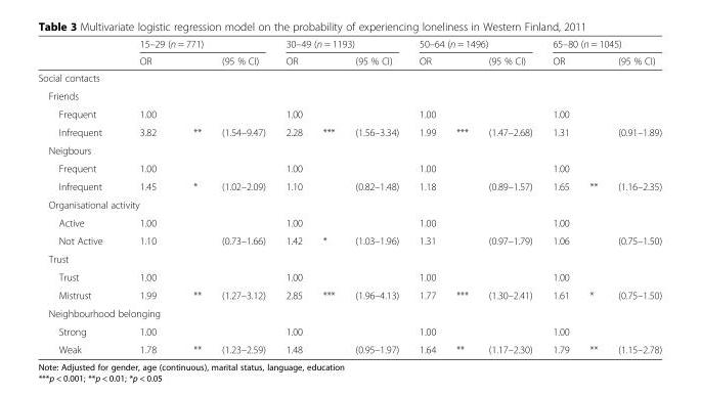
<table><thead><tr><td rowspan="2"></td><td colspan="3">15–29 (n = 771)</td><td colspan="3">30–49 (n = 1193)</td><td colspan="3">50–64 (n = 1496)</td><td colspan="3">65–80 (n = 1045)</td></tr><tr><td>OR</td><td></td><td>(95 % CI)</td><td>OR</td><td></td><td>(95 % CI)</td><td>OR</td><td></td><td>(95 % CI)</td><td>OR</td><td></td><td>(95 % CI)</td></tr></thead><tbody><tr><td colspan="13">Social contacts</td></tr><tr><td colspan="13">Friends</td></tr><tr><td>Frequent</td><td>1.00</td><td></td><td></td><td>1.00</td><td></td><td></td><td>1.00</td><td></td><td></td><td>1.00</td><td></td><td></td></tr><tr><td>Infrequent</td><td>3.82</td><td>**</td><td>(1.54–9.47)</td><td>2.28</td><td>***</td><td>(1.56–3.34)</td><td>1.99</td><td>***</td><td>(1.47–2.68)</td><td>1.31</td><td></td><td>(0.91–1.89)</td></tr><tr><td colspan="13">Neigbours</td></tr><tr><td>Frequent</td><td>1.00</td><td></td><td></td><td>1.00</td><td></td><td></td><td>1.00</td><td></td><td></td><td>1.00</td><td></td><td></td></tr><tr><td>Infrequent</td><td>1.45</td><td>*</td><td>(1.02–2.09)</td><td>1.10</td><td></td><td>(0.82–1.48)</td><td>1.18</td><td></td><td>(0.89–1.57)</td><td>1.65</td><td>**</td><td>(1.16–2.35)</td></tr><tr><td colspan="13">Organisational activity</td></tr><tr><td>Active</td><td>1.00</td><td></td><td></td><td>1.00</td><td></td><td></td><td>1.00</td><td></td><td></td><td>1.00</td><td></td><td></td></tr><tr><td>Not Active</td><td>1.10</td><td></td><td>(0.73–1.66)</td><td>1.42</td><td>*</td><td>(1.03–1.96)</td><td>1.31</td><td></td><td>(0.97–1.79)</td><td>1.06</td><td></td><td>(0.75–1.50)</td></tr><tr><td colspan="13">Trust</td></tr><tr><td>Trust</td><td>1.00</td><td></td><td></td><td>1.00</td><td></td><td></td><td>1.00</td><td></td><td></td><td>1.00</td><td></td><td></td></tr><tr><td>Mistrust</td><td>1.99</td><td>**</td><td>(1.27–3.12)</td><td>2.85</td><td>***</td><td>(1.96–4.13)</td><td>1.77</td><td>***</td><td>(1.30–2.41)</td><td>1.61</td><td>*</td><td>(0.75–1.50)</td></tr><tr><td colspan="13">Neighbourhood belonging</td></tr><tr><td>Strong</td><td>1.00</td><td></td><td></td><td>1.00</td><td></td><td></td><td>1.00</td><td></td><td></td><td>1.00</td><td></td><td></td></tr><tr><td>Weak</td><td>1.78</td><td>**</td><td>(1.23–2.59)</td><td>1.48</td><td></td><td>(0.95–1.97)</td><td>1.64</td><td>**</td><td>(1.17–2.30)</td><td>1.79</td><td>**</td><td>(1.15–2.78)</td></tr></tbody></table>